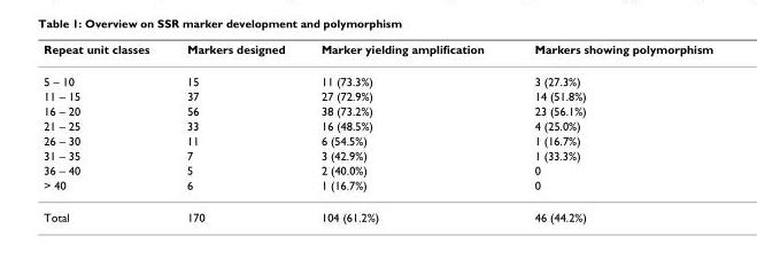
<table><thead><tr><td>Repeat unit classes</td><td>Markers designed</td><td>Marker yielding amplification</td><td>Markers showing polymorphism</td></tr></thead><tbody><tr><td>5 – 10</td><td>15</td><td>11 (73.3%)</td><td>3 (27.3%)</td></tr><tr><td>11 – 15</td><td>37</td><td>27 (72.9%)</td><td>14 (51.8%)</td></tr><tr><td>16 – 20</td><td>56</td><td>38 (73.2%)</td><td>23 (56.1%)</td></tr><tr><td>21 – 25</td><td>33</td><td>16 (48.5%)</td><td>4 (25.0%)</td></tr><tr><td>26 – 30</td><td>11</td><td>6 (54.5%)</td><td>1 (16.7%)</td></tr><tr><td>31 – 35</td><td>7</td><td>3 (42.9%)</td><td>1 (33.3%)</td></tr><tr><td>36 – 40</td><td>5</td><td>2 (40.0%)</td><td>0</td></tr><tr><td>&gt; 40</td><td>6</td><td>1 (16.7%)</td><td>0</td></tr><tr><td>Total</td><td>170</td><td>104 (61.2%)</td><td>46 (44.2%)</td></tr></tbody></table>